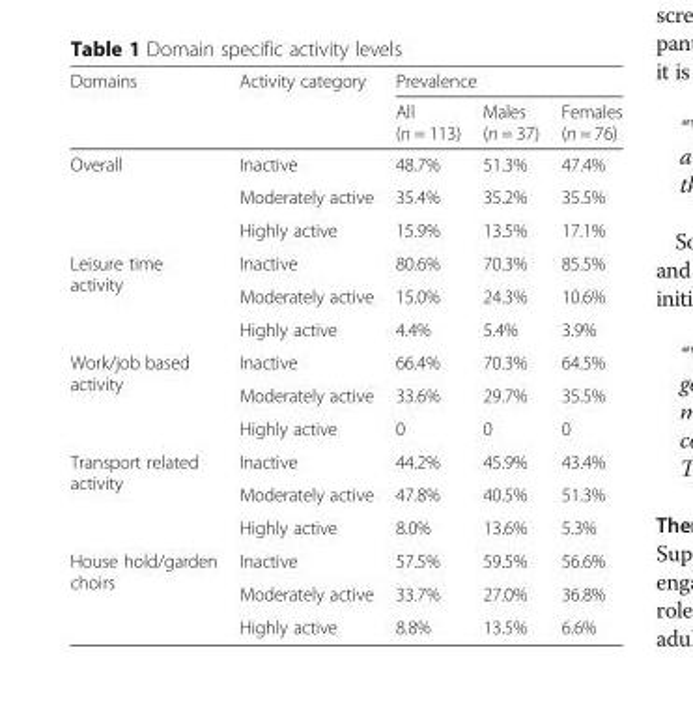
<table><thead><tr><td rowspan="2">Domains</td><td rowspan="2">Activity category</td><td colspan="3">Prevalence</td></tr><tr><td>All (n = 113)</td><td>Males (n = 37)</td><td>Females (n = 76)</td></tr></thead><tbody><tr><td rowspan="3">Overall</td><td>Inactive</td><td>48.7%</td><td>51.3%</td><td>47.4%</td></tr><tr><td>Moderately active</td><td>35.4%</td><td>35.2%</td><td>35.5%</td></tr><tr><td>Highly active</td><td>15.9%</td><td>13.5%</td><td>17.1%</td></tr><tr><td rowspan="3">Leisure time activity</td><td>Inactive</td><td>80.6%</td><td>70.3%</td><td>85.5%</td></tr><tr><td>Moderately active</td><td>15.0%</td><td>24.3%</td><td>10.6%</td></tr><tr><td>Highly active</td><td>4.4%</td><td>5.4%</td><td>3.9%</td></tr><tr><td rowspan="3">Work/job based activity</td><td>Inactive</td><td>66.4%</td><td>70.3%</td><td>64.5%</td></tr><tr><td>Moderately active</td><td>33.6%</td><td>29.7%</td><td>35.5%</td></tr><tr><td>Highly active</td><td>0</td><td>0</td><td>0</td></tr><tr><td rowspan="3">Transport related activity</td><td>Inactive</td><td>44.2%</td><td>45.9%</td><td>43.4%</td></tr><tr><td>Moderately active</td><td>47.8%</td><td>40.5%</td><td>51.3%</td></tr><tr><td>Highly active</td><td>8.0%</td><td>13.6%</td><td>5.3%</td></tr><tr><td rowspan="3">House hold/garden choirs</td><td>Inactive</td><td>57.5%</td><td>59.5%</td><td>56.6%</td></tr><tr><td>Moderately active</td><td>33.7%</td><td>27.0%</td><td>36.8%</td></tr><tr><td>Highly active</td><td>8.8%</td><td>13.5%</td><td>6.6%</td></tr></tbody></table>